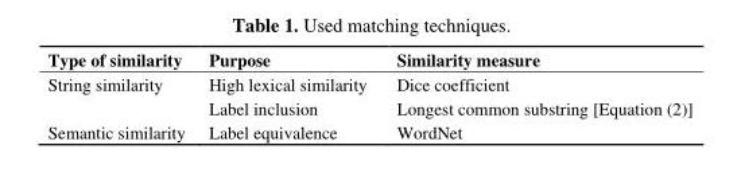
<table><thead><tr><td>Type of similarity</td><td>Purpose</td><td>Similarity measure</td></tr></thead><tbody><tr><td rowspan="2">String similarity</td><td>High lexical similarity</td><td>Dice coefficient</td></tr><tr><td>Label inclusion</td><td>Longest common substring [Equation (2)]</td></tr><tr><td>Semantic similarity</td><td>Label equivalence</td><td>WordNet</td></tr></tbody></table>